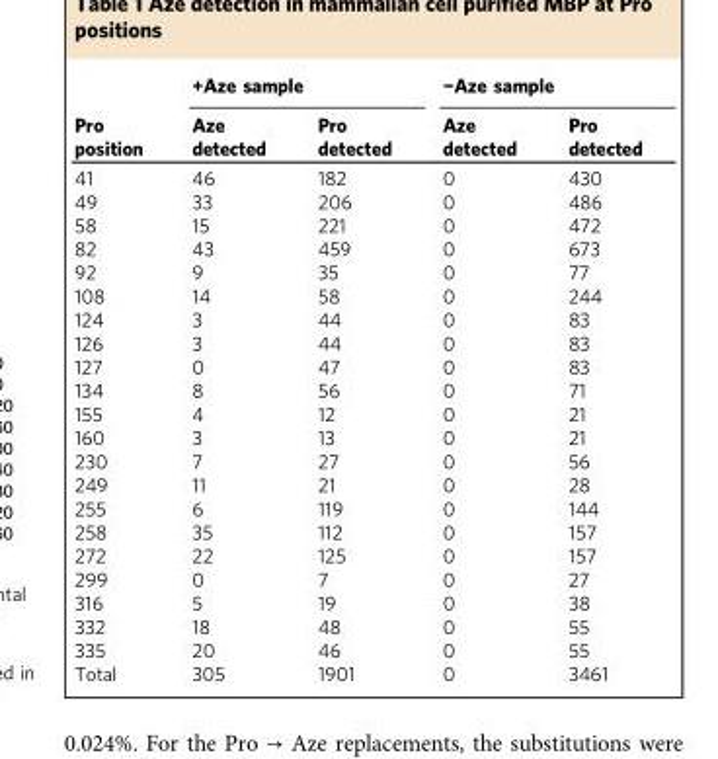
<table><thead><tr><td rowspan="2">Pro position</td><td colspan="2">+Aze sample</td><td colspan="2">−Aze sample</td></tr><tr><td>Aze detected</td><td>Pro detected</td><td>Aze detected</td><td>Pro detected</td></tr></thead><tbody><tr><td>41</td><td>46</td><td>182</td><td>0</td><td>430</td></tr><tr><td>49</td><td>33</td><td>206</td><td>0</td><td>486</td></tr><tr><td>58</td><td>15</td><td>221</td><td>0</td><td>472</td></tr><tr><td>82</td><td>43</td><td>459</td><td>0</td><td>673</td></tr><tr><td>92</td><td>9</td><td>35</td><td>0</td><td>77</td></tr><tr><td>108</td><td>14</td><td>58</td><td>0</td><td>244</td></tr><tr><td>124</td><td>3</td><td>44</td><td>0</td><td>83</td></tr><tr><td>126</td><td>3</td><td>44</td><td>0</td><td>83</td></tr><tr><td>127</td><td>0</td><td>47</td><td>0</td><td>83</td></tr><tr><td>134</td><td>8</td><td>56</td><td>0</td><td>71</td></tr><tr><td>155</td><td>4</td><td>12</td><td>0</td><td>21</td></tr><tr><td>160</td><td>3</td><td>13</td><td>0</td><td>21</td></tr><tr><td>230</td><td>7</td><td>27</td><td>0</td><td>56</td></tr><tr><td>249</td><td>11</td><td>21</td><td>0</td><td>28</td></tr><tr><td>255</td><td>6</td><td>119</td><td>0</td><td>144</td></tr><tr><td>258</td><td>35</td><td>112</td><td>0</td><td>157</td></tr><tr><td>272</td><td>22</td><td>125</td><td>0</td><td>157</td></tr><tr><td>299</td><td>0</td><td>7</td><td>0</td><td>27</td></tr><tr><td>316</td><td>5</td><td>19</td><td>0</td><td>38</td></tr><tr><td>332</td><td>18</td><td>48</td><td>0</td><td>55</td></tr><tr><td>335</td><td>20</td><td>46</td><td>0</td><td>55</td></tr><tr><td>Total</td><td>305</td><td>1901</td><td>0</td><td>3461</td></tr></tbody></table>